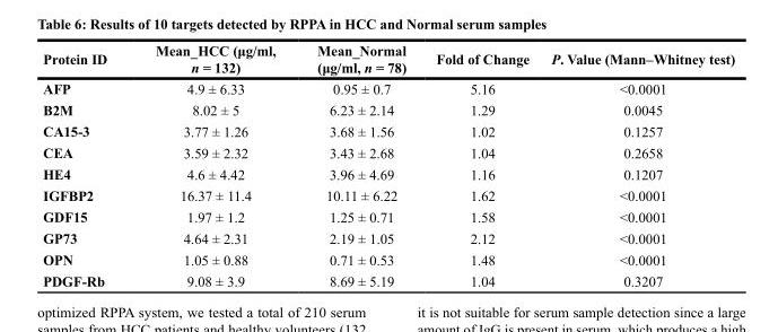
<table><thead><tr><td>Protein ID</td><td>Mean_HCC (μg/ml, n = 132)</td><td>Mean_Normal (μg/ml, n = 78)</td><td>Fold of Change</td><td>P. Value (Mann–Whitney test)</td></tr></thead><tbody><tr><td>AFP</td><td>4.9 ± 6.33</td><td>0.95 ± 0.7</td><td>5.16</td><td>&lt;0.0001</td></tr><tr><td>B2M</td><td>8.02 ± 5</td><td>6.23 ± 2.14</td><td>1.29</td><td>0.0045</td></tr><tr><td>CA15-3</td><td>3.77 ± 1.26</td><td>3.68 ± 1.56</td><td>1.02</td><td>0.1257</td></tr><tr><td>CEA</td><td>3.59 ± 2.32</td><td>3.43 ± 2.68</td><td>1.04</td><td>0.2658</td></tr><tr><td>HE4</td><td>4.6 ± 4.42</td><td>3.96 ± 4.69</td><td>1.16</td><td>0.1207</td></tr><tr><td>IGFBP2</td><td>16.37 ± 11.4</td><td>10.11 ± 6.22</td><td>1.62</td><td>&lt;0.0001</td></tr><tr><td>GDF15</td><td>1.97 ± 1.2</td><td>1.25 ± 0.71</td><td>1.58</td><td>&lt;0.0001</td></tr><tr><td>GP73</td><td>4.64 ± 2.31</td><td>2.19 ± 1.05</td><td>2.12</td><td>&lt;0.0001</td></tr><tr><td>OPN</td><td>1.05 ± 0.88</td><td>0.71 ± 0.53</td><td>1.48</td><td>&lt;0.0001</td></tr><tr><td>PDGF-Rb</td><td>9.08 ± 3.9</td><td>8.69 ± 5.19</td><td>1.04</td><td>0.3207</td></tr></tbody></table>